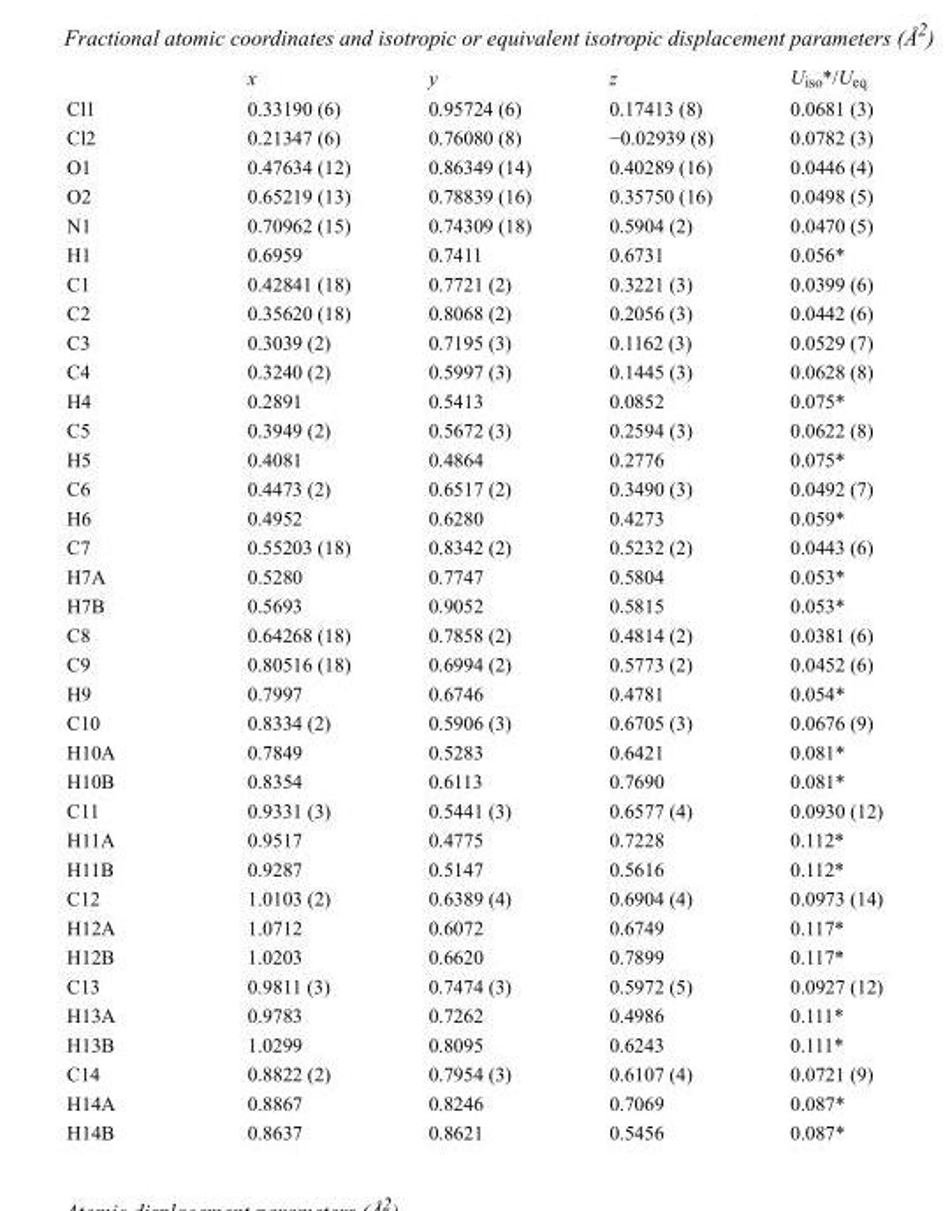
<table><thead><tr><td></td><td>x</td><td>y</td><td>z</td><td>U<sub>iso</sub>*/U<sub>eq</sub></td></tr></thead><tbody><tr><td>Cl1</td><td>0.33190 (6)</td><td>0.95724 (6)</td><td>0.17413 (8)</td><td>0.0681 (3)</td></tr><tr><td>Cl2</td><td>0.21347 (6)</td><td>0.76080 (8)</td><td>−0.02939 (8)</td><td>0.0782 (3)</td></tr><tr><td>O1</td><td>0.47634 (12)</td><td>0.86349 (14)</td><td>0.40289 (16)</td><td>0.0446 (4)</td></tr><tr><td>O2</td><td>0.65219 (13)</td><td>0.78839 (16)</td><td>0.35750 (16)</td><td>0.0498 (5)</td></tr><tr><td>N1</td><td>0.70962 (15)</td><td>0.74309 (18)</td><td>0.5904 (2)</td><td>0.0470 (5)</td></tr><tr><td>H1</td><td>0.6959</td><td>0.7411</td><td>0.6731</td><td>0.056*</td></tr><tr><td>C1</td><td>0.42841 (18)</td><td>0.7721 (2)</td><td>0.3221 (3)</td><td>0.0399 (6)</td></tr><tr><td>C2</td><td>0.35620 (18)</td><td>0.8068 (2)</td><td>0.2056 (3)</td><td>0.0442 (6)</td></tr><tr><td>C3</td><td>0.3039 (2)</td><td>0.7195 (3)</td><td>0.1162 (3)</td><td>0.0529 (7)</td></tr><tr><td>C4</td><td>0.3240 (2)</td><td>0.5997 (3)</td><td>0.1445 (3)</td><td>0.0628 (8)</td></tr><tr><td>H4</td><td>0.2891</td><td>0.5413</td><td>0.0852</td><td>0.075*</td></tr><tr><td>C5</td><td>0.3949 (2)</td><td>0.5672 (3)</td><td>0.2594 (3)</td><td>0.0622 (8)</td></tr><tr><td>H5</td><td>0.4081</td><td>0.4864</td><td>0.2776</td><td>0.075*</td></tr><tr><td>C6</td><td>0.4473 (2)</td><td>0.6517 (2)</td><td>0.3490 (3)</td><td>0.0492 (7)</td></tr><tr><td>H6</td><td>0.4952</td><td>0.6280</td><td>0.4273</td><td>0.059*</td></tr><tr><td>C7</td><td>0.55203 (18)</td><td>0.8342 (2)</td><td>0.5232 (2)</td><td>0.0443 (6)</td></tr><tr><td>H7A</td><td>0.5280</td><td>0.7747</td><td>0.5804</td><td>0.053*</td></tr><tr><td>H7B</td><td>0.5693</td><td>0.9052</td><td>0.5815</td><td>0.053*</td></tr><tr><td>C8</td><td>0.64268 (18)</td><td>0.7858 (2)</td><td>0.4814 (2)</td><td>0.0381 (6)</td></tr><tr><td>C9</td><td>0.80516 (18)</td><td>0.6994 (2)</td><td>0.5773 (2)</td><td>0.0452 (6)</td></tr><tr><td>H9</td><td>0.7997</td><td>0.6746</td><td>0.4781</td><td>0.054*</td></tr><tr><td>C10</td><td>0.8334 (2)</td><td>0.5906 (3)</td><td>0.6705 (3)</td><td>0.0676 (9)</td></tr><tr><td>H10A</td><td>0.7849</td><td>0.5283</td><td>0.6421</td><td>0.081*</td></tr><tr><td>H10B</td><td>0.8354</td><td>0.6113</td><td>0.7690</td><td>0.081*</td></tr><tr><td>C11</td><td>0.9331 (3)</td><td>0.5441 (3)</td><td>0.6577 (4)</td><td>0.0930 (12)</td></tr><tr><td>H11A</td><td>0.9517</td><td>0.4775</td><td>0.7228</td><td>0.112*</td></tr><tr><td>H11B</td><td>0.9287</td><td>0.5147</td><td>0.5616</td><td>0.112*</td></tr><tr><td>C12</td><td>1.0103 (2)</td><td>0.6389 (4)</td><td>0.6904 (4)</td><td>0.0973 (14)</td></tr><tr><td>H12A</td><td>1.0712</td><td>0.6072</td><td>0.6749</td><td>0.117*</td></tr><tr><td>H12B</td><td>1.0203</td><td>0.6620</td><td>0.7899</td><td>0.117*</td></tr><tr><td>C13</td><td>0.9811 (3)</td><td>0.7474 (3)</td><td>0.5972 (5)</td><td>0.0927 (12)</td></tr><tr><td>H13A</td><td>0.9783</td><td>0.7262</td><td>0.4986</td><td>0.111*</td></tr><tr><td>H13B</td><td>1.0299</td><td>0.8095</td><td>0.6243</td><td>0.111*</td></tr><tr><td>C14</td><td>0.8822 (2)</td><td>0.7954 (3)</td><td>0.6107 (4)</td><td>0.0721 (9)</td></tr><tr><td>H14A</td><td>0.8867</td><td>0.8246</td><td>0.7069</td><td>0.087*</td></tr><tr><td>H14B</td><td>0.8637</td><td>0.8621</td><td>0.5456</td><td>0.087*</td></tr></tbody></table>